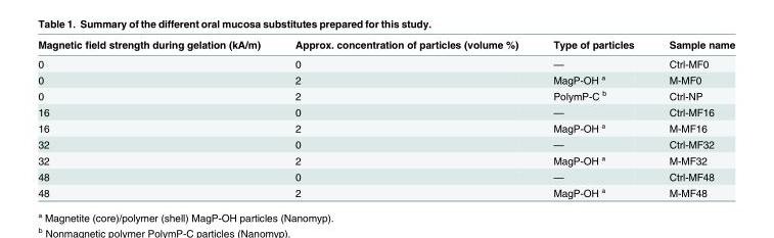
<table><thead><tr><td>Magnetic field strength during gelation (kA/m)</td><td>Approx. concentration of particles (volume %)</td><td>Type of particles</td><td>Sample name</td></tr></thead><tbody><tr><td>0</td><td>0</td><td>—</td><td>Ctrl-MF0</td></tr><tr><td>0</td><td>2</td><td>MagP-OH ª</td><td>M-MF0</td></tr><tr><td>0</td><td>2</td><td>PolymP-C <sup>b</sup></td><td>Ctrl-NP</td></tr><tr><td>16</td><td>0</td><td>—</td><td>Ctrl-MF16</td></tr><tr><td>16</td><td>2</td><td>MagP-OH ª</td><td>M-MF16</td></tr><tr><td>32</td><td>0</td><td>—</td><td>Ctrl-MF32</td></tr><tr><td>32</td><td>2</td><td>MagP-OH ª</td><td>M-MF32</td></tr><tr><td>48</td><td>0</td><td>—</td><td>Ctrl-MF48</td></tr><tr><td>48</td><td>2</td><td>MagP-OH ª</td><td>M-MF48</td></tr></tbody></table>